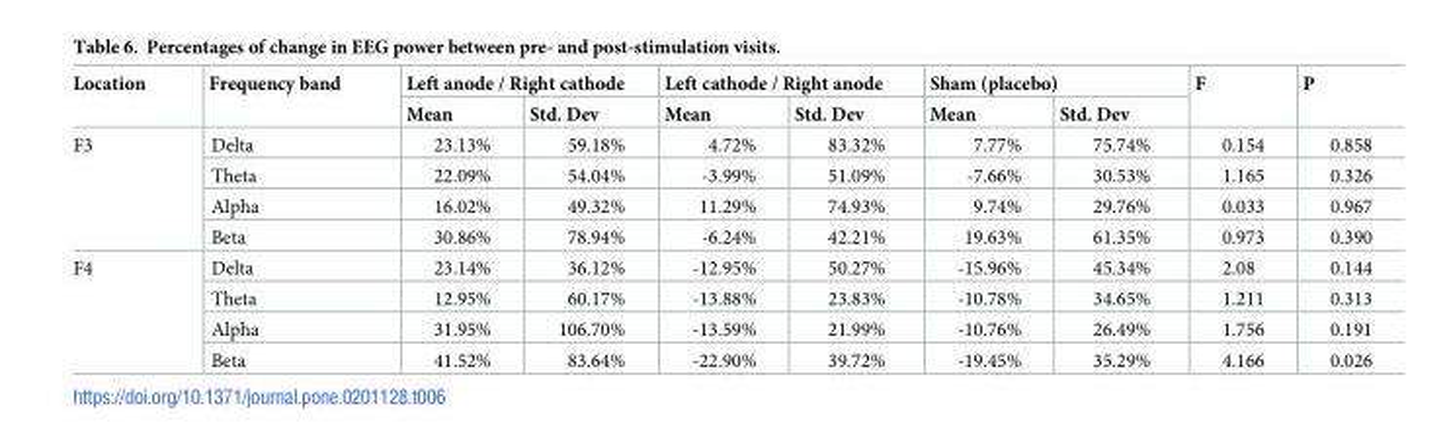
<table><thead><tr><td rowspan="2">Location</td><td rowspan="2">Frequency band</td><td colspan="2">Left anode / Right cathode</td><td colspan="2">Left cathode / Right anode</td><td colspan="2">Sham (placebo)</td><td rowspan="2">F</td><td rowspan="2">P</td></tr><tr><td>Mean</td><td>Std. Dev</td><td>Mean</td><td>Std. Dev</td><td>Mean</td><td>Std. Dev</td></tr></thead><tbody><tr><td rowspan="4">F3</td><td>Delta</td><td>23.13%</td><td>59.18%</td><td>4.72%</td><td>83.32%</td><td>7.77%</td><td>75.74%</td><td>0.154</td><td>0.858</td></tr><tr><td>Theta</td><td>22.09%</td><td>54.04%</td><td>-3.99%</td><td>51.09%</td><td>-7.66%</td><td>30.53%</td><td>1.165</td><td>0.326</td></tr><tr><td>Alpha</td><td>16.02%</td><td>49.32%</td><td>11.29%</td><td>74.93%</td><td>9.74%</td><td>29.76%</td><td>0.033</td><td>0.967</td></tr><tr><td>Beta</td><td>30.86%</td><td>78.94%</td><td>-6.24%</td><td>42.21%</td><td>19.63%</td><td>61.35%</td><td>0.973</td><td>0.390</td></tr><tr><td rowspan="4">F4</td><td>Delta</td><td>23.14%</td><td>36.12%</td><td>-12.95%</td><td>50.27%</td><td>-15.96%</td><td>45.34%</td><td>2.08</td><td>0.144</td></tr><tr><td>Theta</td><td>12.95%</td><td>60.17%</td><td>-13.88%</td><td>23.83%</td><td>-10.78%</td><td>34.65%</td><td>1.211</td><td>0.313</td></tr><tr><td>Alpha</td><td>31.95%</td><td>106.70%</td><td>-13.59%</td><td>21.99%</td><td>-10.76%</td><td>26.49%</td><td>1.756</td><td>0.191</td></tr><tr><td>Beta</td><td>41.52%</td><td>83.64%</td><td>-22.90%</td><td>39.72%</td><td>-19.45%</td><td>35.29%</td><td>4.166</td><td>0.026</td></tr></tbody></table>